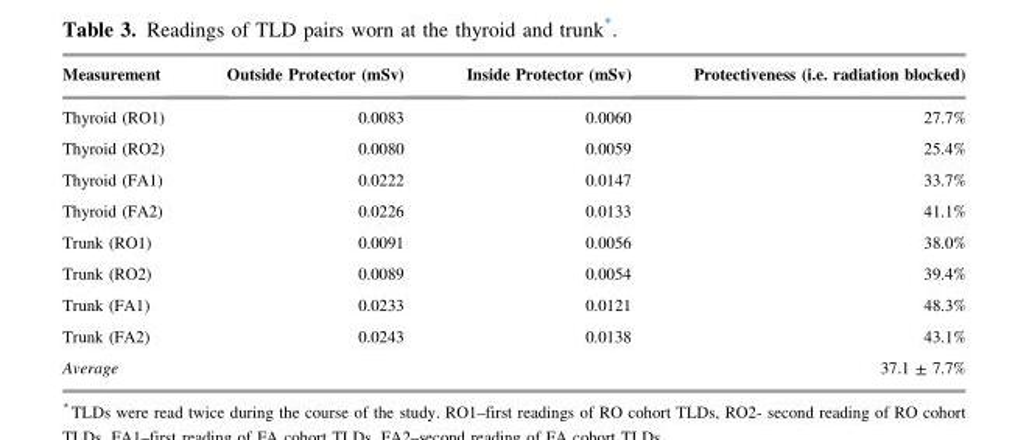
<table><thead><tr><td>Measurement</td><td>Outside Protector (mSv)</td><td>Inside Protector (mSv)</td><td>Protectiveness (i.e. radiation blocked)</td></tr></thead><tbody><tr><td>Thyroid (RO1)</td><td>0.0083</td><td>0.0060</td><td>27.7%</td></tr><tr><td>Thyroid (RO2)</td><td>0.0080</td><td>0.0059</td><td>25.4%</td></tr><tr><td>Thyroid (FA1)</td><td>0.0222</td><td>0.0147</td><td>33.7%</td></tr><tr><td>Thyroid (FA2)</td><td>0.0226</td><td>0.0133</td><td>41.1%</td></tr><tr><td>Trunk (RO1)</td><td>0.0091</td><td>0.0056</td><td>38.0%</td></tr><tr><td>Trunk (RO2)</td><td>0.0089</td><td>0.0054</td><td>39.4%</td></tr><tr><td>Trunk (FA1)</td><td>0.0233</td><td>0.0121</td><td>48.3%</td></tr><tr><td>Trunk (FA2)</td><td>0.0243</td><td>0.0138</td><td>43.1%</td></tr><tr><td>Average</td><td></td><td></td><td>37.1 ± 7.7%</td></tr></tbody></table>